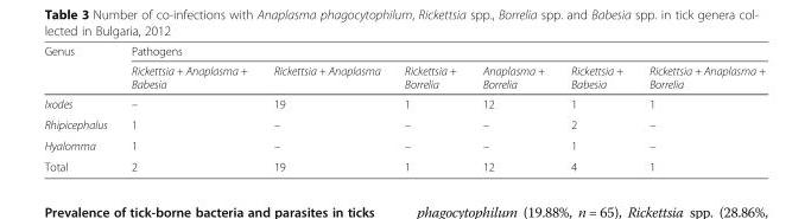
<table><thead><tr><td rowspan="2">Genus</td><td colspan="6">Pathogens</td></tr><tr><td>Rickettsia + Anaplasma + Babesia</td><td>Rickettsia + Anaplasma</td><td>Rickettsia + Borrelia</td><td>Anaplasma + Borrelia</td><td>Rickettsia + Babesia</td><td>Rickettsia + Anaplasma + Borrelia</td></tr></thead><tbody><tr><td>Ixodes</td><td>–</td><td>19</td><td>1</td><td>12</td><td>1</td><td>1</td></tr><tr><td>Rhipicephalus</td><td>1</td><td>–</td><td>–</td><td>–</td><td>2</td><td>–</td></tr><tr><td>Hyalomma</td><td>1</td><td>–</td><td>–</td><td>–</td><td>1</td><td>–</td></tr><tr><td>Total</td><td>2</td><td>19</td><td>1</td><td>12</td><td>4</td><td>1</td></tr></tbody></table>